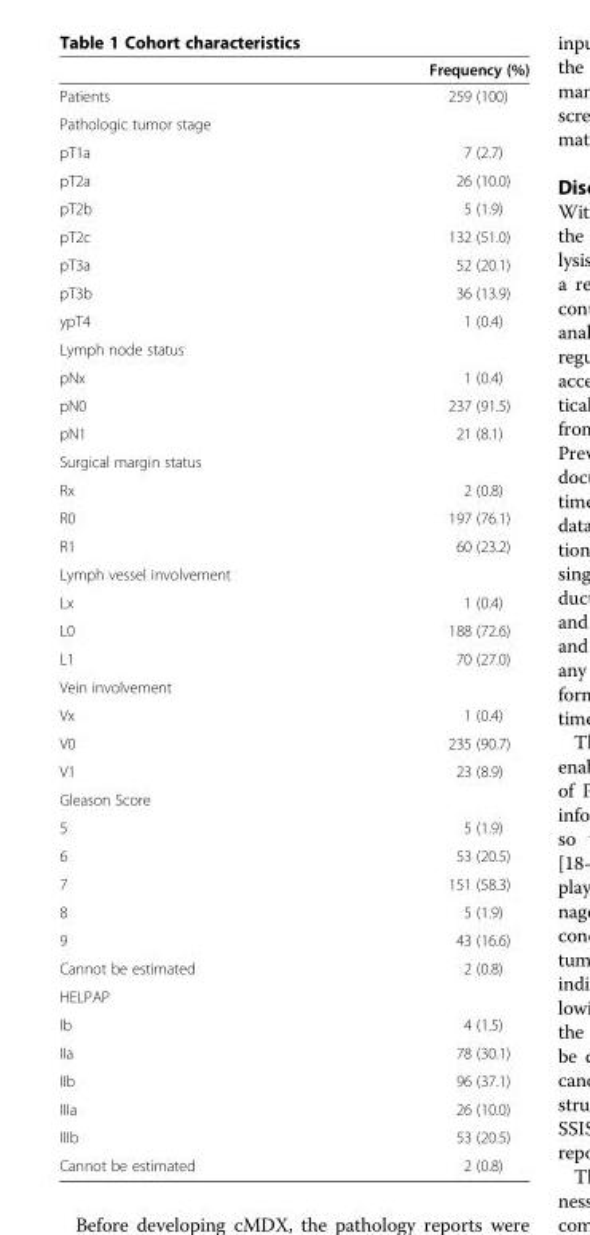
<table><thead><tr><td></td><td>Frequency (%)</td></tr></thead><tbody><tr><td>Patients</td><td>259 (100)</td></tr><tr><td colspan="2">Pathologic tumor stage</td></tr><tr><td>pT1a</td><td>7 (2.7)</td></tr><tr><td>pT2a</td><td>26 (10.0)</td></tr><tr><td>pT2b</td><td>5 (1.9)</td></tr><tr><td>pT2c</td><td>132 (51.0)</td></tr><tr><td>pT3a</td><td>52 (20.1)</td></tr><tr><td>pT3b</td><td>36 (13.9)</td></tr><tr><td>ypT4</td><td>1 (0.4)</td></tr><tr><td colspan="2">Lymph node status</td></tr><tr><td>pNx</td><td>1 (0.4)</td></tr><tr><td>pN0</td><td>237 (91.5)</td></tr><tr><td>pN1</td><td>21 (8.1)</td></tr><tr><td colspan="2">Surgical margin status</td></tr><tr><td>Rx</td><td>2 (0.8)</td></tr><tr><td>R0</td><td>197 (76.1)</td></tr><tr><td>R1</td><td>60 (23.2)</td></tr><tr><td colspan="2">Lymph vessel involvement</td></tr><tr><td>Lx</td><td>1 (0.4)</td></tr><tr><td>L0</td><td>188 (72.6)</td></tr><tr><td>L1</td><td>70 (27.0)</td></tr><tr><td colspan="2">Vein involvement</td></tr><tr><td>Vx</td><td>1 (0.4)</td></tr><tr><td>V0</td><td>235 (90.7)</td></tr><tr><td>V1</td><td>23 (8.9)</td></tr><tr><td colspan="2">Gleason Score</td></tr><tr><td>5</td><td>5 (1.9)</td></tr><tr><td>6</td><td>53 (20.5)</td></tr><tr><td>7</td><td>151 (58.3)</td></tr><tr><td>8</td><td>5 (1.9)</td></tr><tr><td>9</td><td>43 (16.6)</td></tr><tr><td>Cannot be estimated</td><td>2 (0.8)</td></tr><tr><td colspan="2">HELPAP</td></tr><tr><td>Ib</td><td>4 (1.5)</td></tr><tr><td>IIa</td><td>78 (30.1)</td></tr><tr><td>IIb</td><td>96 (37.1)</td></tr><tr><td>IIIa</td><td>26 (10.0)</td></tr><tr><td>IIIb</td><td>53 (20.5)</td></tr><tr><td>Cannot be estimated</td><td>2 (0.8)</td></tr></tbody></table>